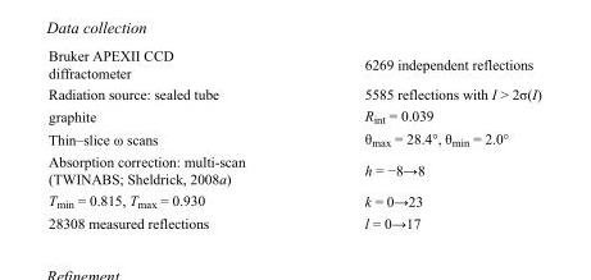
<table><tbody><tr><td>Bruker APEXII CCD diffractometer</td><td>6269 independent reflections</td></tr><tr><td>Radiation source: sealed tube</td><td>5585 reflections with I &gt; 2σ(I)</td></tr><tr><td>graphite</td><td>R<sub>int</sub> = 0.039</td></tr><tr><td>Thin–slice ω scans</td><td>θ<sub>max</sub> = 28.4°, θ<sub>min</sub> = 2.0°</td></tr><tr><td>Absorption correction: multi-scan (TWINABS; Sheldrick, 2008a)</td><td>h = −8→8</td></tr><tr><td>T<sub>min</sub> = 0.815, T<sub>max</sub> = 0.930</td><td>k = 0→23</td></tr><tr><td>28308 measured reflections</td><td>l = 0→17</td></tr></tbody></table>